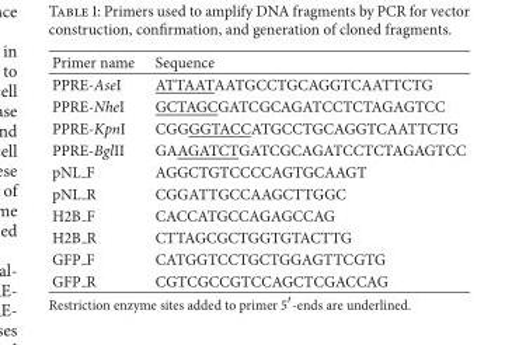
<table><thead><tr><td>Primer name</td><td>Sequence</td></tr></thead><tbody><tr><td>PPRE-AseI</td><td>ATTAATAATGCCTGCAGGTCAATTCTG</td></tr><tr><td>PPRE-NheI</td><td>GCTAGCGATCGCAGATCCTCTAGAGTCC</td></tr><tr><td>PPRE-KpnI</td><td>CGGGGTACCATGCCTGCAGGTCAATTCTG</td></tr><tr><td>PPRE-BglII</td><td>GAAGATCTGATCGCAGATCCTCTAGAGTCC</td></tr><tr><td>pNL F</td><td>AGGCTGTCCCCAGTGCAAGT</td></tr><tr><td>pNL R</td><td>CGGATTGCCAAGCTTGGC</td></tr><tr><td>H2B F</td><td>CACCATGCCAGAGCCAG</td></tr><tr><td>H2B R</td><td>CTTAGCGCTGGTGTACTTG</td></tr><tr><td>GFP F</td><td>CATGGTCCTGCTGGAGTTCGTG</td></tr><tr><td>GFP R</td><td>CGTCGCCGTCCAGCTCGACCAG</td></tr></tbody></table>